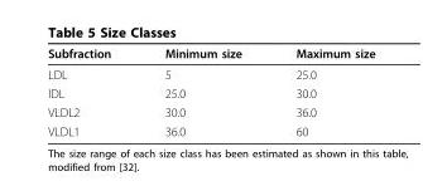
<table><thead><tr><td>Subfraction</td><td>Minimum size</td><td>Maximum size</td></tr></thead><tbody><tr><td>LDL</td><td>5</td><td>25.0</td></tr><tr><td>IDL</td><td>25.0</td><td>30.0</td></tr><tr><td>VLDL2</td><td>30.0</td><td>36.0</td></tr><tr><td>VLDL1</td><td>36.0</td><td>60</td></tr></tbody></table>